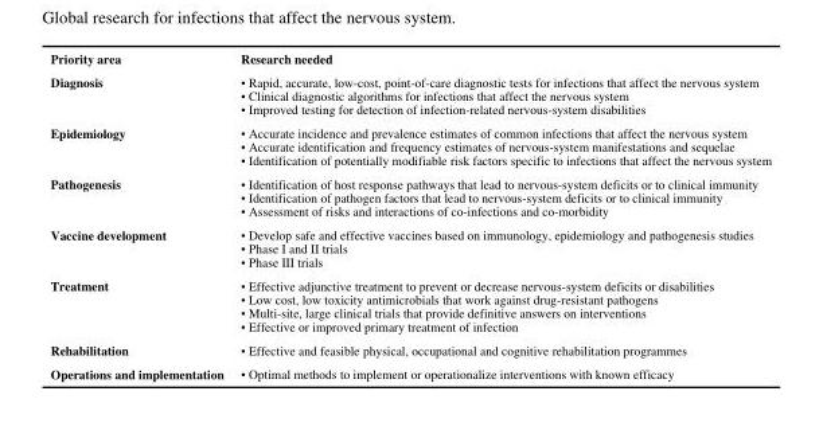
<table><thead><tr><td>Priority area</td><td>Research needed</td></tr></thead><tbody><tr><td>Diagnosis</td><td>• Rapid, accurate, low-cost, point-of-care diagnostic tests for infections that affect the nervous system • Clinical diagnostic algorithms for infections that affect the nervous system • Improved testing for detection of infection-related nervous-system disabilities</td></tr><tr><td>Epidemiology</td><td>• Accurate incidence and prevalence estimates of common infections that affect the nervous system • Accurate identification and frequency estimates of nervous-system manifestations and sequelae • Identification of potentially modifiable risk factors specific to infections that affect the nervous system</td></tr><tr><td>Pathogenesis</td><td>• Identification of host response pathways that lead to nervous-system deficits or to clinical immunity • Identification of pathogen factors that lead to nervous-system deficits or to clinical immunity • Assessment of risks and interactions of co-infections and co-morbidity</td></tr><tr><td>Vaccine development</td><td>• Develop safe and effective vaccines based on immunology, epidemiology and pathogenesis studies • Phase I and II trials • Phase III trials</td></tr><tr><td>Treatment</td><td>• Effective adjunctive treatment to prevent or decrease nervous-system deficits or disabilities • Low cost, low toxicity antimicrobials that work against drug-resistant pathogens • Multi-site, large clinical trials that provide definitive answers on interventions • Effective or improved primary treatment of infection</td></tr><tr><td>Rehabilitation</td><td>• Effective and feasible physical, occupational and cognitive rehabilitation programmes</td></tr><tr><td>Operations and implementation</td><td>• Optimal methods to implement or operationalize interventions with known efficacy</td></tr></tbody></table>